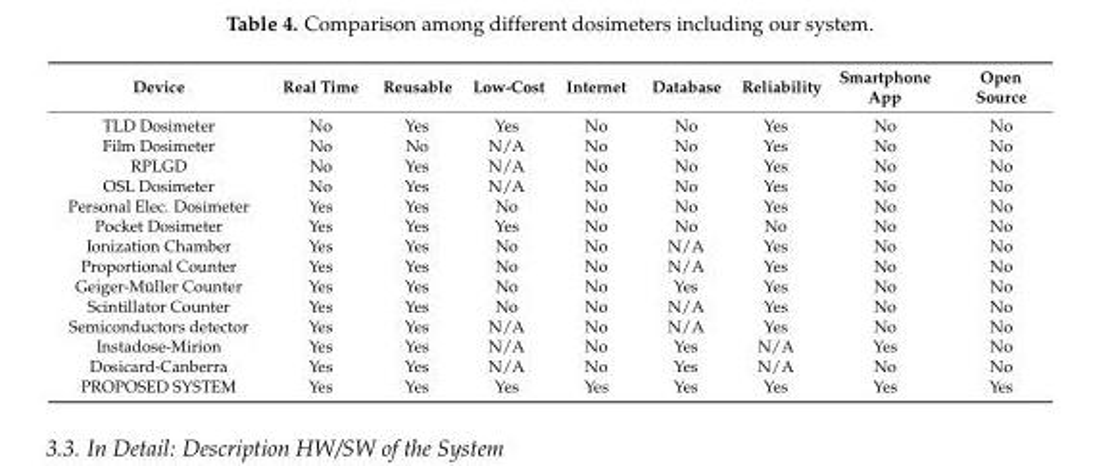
<table><thead><tr><td>Device</td><td>Real Time</td><td>Reusable</td><td>Low-Cost</td><td>Internet</td><td>Database</td><td>Reliability</td><td>Smartphone App</td><td>Open Source</td></tr></thead><tbody><tr><td>TLD Dosimeter</td><td>No</td><td>Yes</td><td>Yes</td><td>No</td><td>No</td><td>Yes</td><td>No</td><td>No</td></tr><tr><td>Film Dosimeter</td><td>No</td><td>No</td><td>N/A</td><td>No</td><td>No</td><td>Yes</td><td>No</td><td>No</td></tr><tr><td>RPLGD</td><td>No</td><td>Yes</td><td>N/A</td><td>No</td><td>No</td><td>Yes</td><td>No</td><td>No</td></tr><tr><td>OSL Dosimeter</td><td>No</td><td>Yes</td><td>N/A</td><td>No</td><td>No</td><td>Yes</td><td>No</td><td>No</td></tr><tr><td>Personal Elec. Dosimeter</td><td>Yes</td><td>Yes</td><td>No</td><td>No</td><td>No</td><td>Yes</td><td>No</td><td>No</td></tr><tr><td>Pocket Dosimeter</td><td>Yes</td><td>Yes</td><td>Yes</td><td>No</td><td>No</td><td>No</td><td>No</td><td>No</td></tr><tr><td>Ionization Chamber</td><td>Yes</td><td>Yes</td><td>No</td><td>No</td><td>N/A</td><td>Yes</td><td>No</td><td>No</td></tr><tr><td>Proportional Counter</td><td>Yes</td><td>Yes</td><td>No</td><td>No</td><td>N/A</td><td>Yes</td><td>No</td><td>No</td></tr><tr><td>Geiger-Müller Counter</td><td>Yes</td><td>Yes</td><td>No</td><td>No</td><td>Yes</td><td>Yes</td><td>No</td><td>No</td></tr><tr><td>Scintillator Counter</td><td>Yes</td><td>Yes</td><td>No</td><td>No</td><td>N/A</td><td>Yes</td><td>No</td><td>No</td></tr><tr><td>Semiconductors detector</td><td>Yes</td><td>Yes</td><td>N/A</td><td>No</td><td>N/A</td><td>Yes</td><td>No</td><td>No</td></tr><tr><td>Instadose-Mirion</td><td>Yes</td><td>Yes</td><td>N/A</td><td>No</td><td>Yes</td><td>N/A</td><td>Yes</td><td>No</td></tr><tr><td>Dosicard-Canberra</td><td>Yes</td><td>Yes</td><td>N/A</td><td>No</td><td>Yes</td><td>N/A</td><td>No</td><td>No</td></tr><tr><td>PROPOSED SYSTEM</td><td>Yes</td><td>Yes</td><td>Yes</td><td>Yes</td><td>Yes</td><td>Yes</td><td>Yes</td><td>Yes</td></tr></tbody></table>